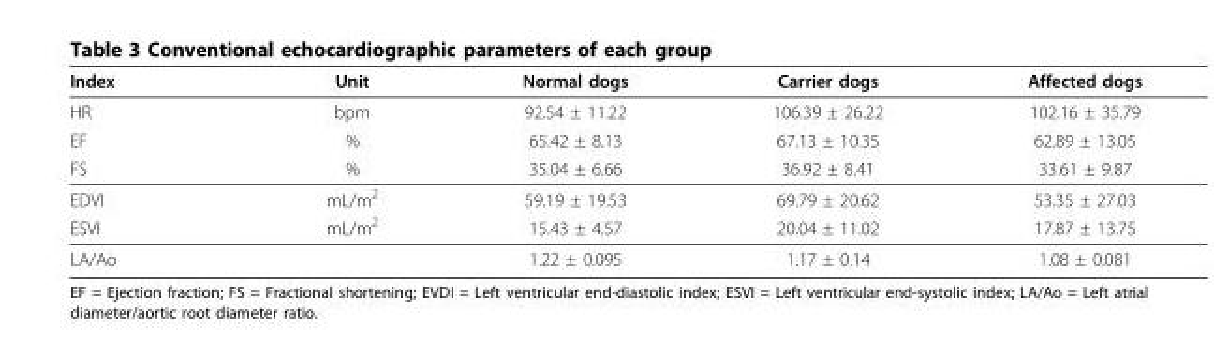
<table><thead><tr><td>Index</td><td>Unit</td><td>Normal dogs</td><td>Carrier dogs</td><td>Affected dogs</td></tr></thead><tbody><tr><td>HR</td><td>bpm</td><td>92.54 ± 11.22</td><td>106.39 ± 26.22</td><td>102.16 ± 35.79</td></tr><tr><td>EF</td><td>%</td><td>65.42 ± 8.13</td><td>67.13 ± 10.35</td><td>62.89 ± 13.05</td></tr><tr><td>FS</td><td>%</td><td>35.04 ± 6.66</td><td>36.92 ± 8.41</td><td>33.61 ± 9.87</td></tr><tr><td>EDVI</td><td>mL/m<sup>2</sup></td><td>59.19 ± 19.53</td><td>69.79 ± 20.62</td><td>53.35 ± 27.03</td></tr><tr><td>ESVI</td><td>mL/m<sup>2</sup></td><td>15.43 ± 4.57</td><td>20.04 ± 11.02</td><td>17.87 ± 13.75</td></tr><tr><td>LA/Ao</td><td></td><td>1.22 ± 0.095</td><td>1.17 ± 0.14</td><td>1.08 ± 0.081</td></tr></tbody></table>